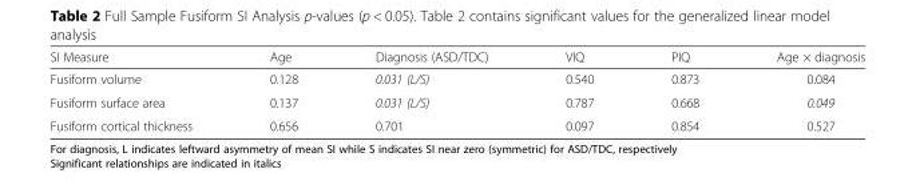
<table><thead><tr><td>SI Measure</td><td>Age</td><td>Diagnosis (ASD/TDC)</td><td>VIQ</td><td>PIQ</td><td>Age × diagnosis</td></tr></thead><tbody><tr><td>Fusiform volume</td><td>0.128</td><td>0.031 (L/S)</td><td>0.540</td><td>0.873</td><td>0.084</td></tr><tr><td>Fusiform surface area</td><td>0.137</td><td>0.031 (L/S)</td><td>0.787</td><td>0.668</td><td>0.049</td></tr><tr><td>Fusiform cortical thickness</td><td>0.656</td><td>0.701</td><td>0.097</td><td>0.854</td><td>0.527</td></tr></tbody></table>